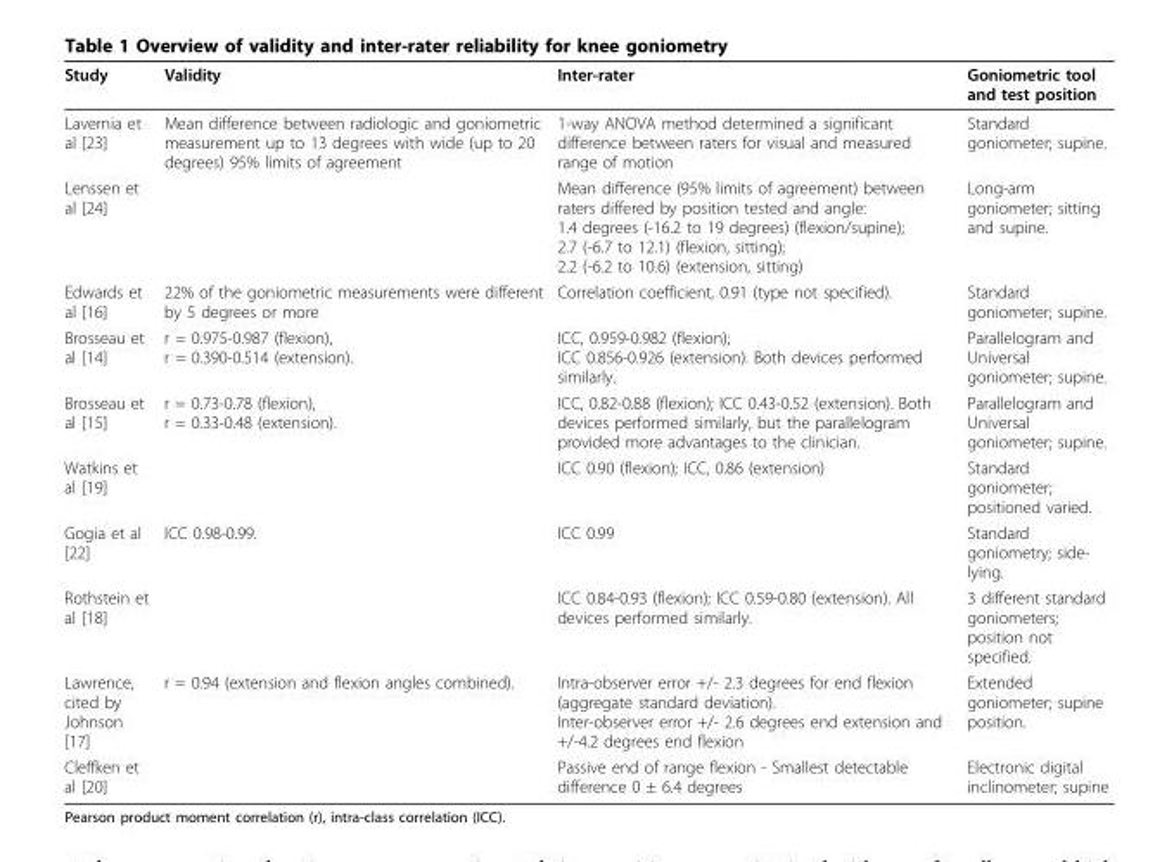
<table><thead><tr><td>Study</td><td>Validity</td><td>Inter-rater</td><td>Goniometric tool and test position</td></tr></thead><tbody><tr><td>Lavernia et al [23]</td><td>Mean difference between radiologic and goniometric measurement up to 13 degrees with wide (up to 20 degrees) 95% limits of agreement</td><td>1-way ANOVA method determined a significant difference between raters for visual and measured range of motion</td><td>Standard goniometer; supine.</td></tr><tr><td>Lenssen et al [24]</td><td></td><td>Mean difference (95% limits of agreement) between raters differed by position tested and angle: 1.4 degrees (-16.2 to 19 degrees) (flexion/supine); 2.7 (-6.7 to 12.1) (flexion, sitting); 2.2 (-6.2 to 10.6) (extension, sitting)</td><td>Long-arm goniometer; sitting and supine.</td></tr><tr><td>Edwards et al [16]</td><td>22% of the goniometric measurements were different by 5 degrees or more</td><td>Correlation coefficient, 0.91 (type not specified).</td><td>Standard goniometer; supine.</td></tr><tr><td>Brosseau et al [14]</td><td>r = 0.975-0.987 (flexion), r = 0.390-0.514 (extension).</td><td>ICC, 0.959-0.982 (flexion); ICC 0.856-0.926 (extension). Both devices performed similarly.</td><td>Parallelogram and Universal goniometer; supine.</td></tr><tr><td>Brosseau et al [15]</td><td>r = 0.73-0.78 (flexion), r = 0.33-0.48 (extension).</td><td>ICC, 0.82-0.88 (flexion); ICC 0.43-0.52 (extension). Both devices performed similarly, but the parallelogram provided more advantages to the clinician.</td><td>Parallelogram and Universal goniometer; supine.</td></tr><tr><td>Watkins et al [19]</td><td></td><td>ICC 0.90 (flexion); ICC, 0.86 (extension)</td><td>Standard goniometer; positioned varied.</td></tr><tr><td>Gogia et al [22]</td><td>ICC 0.98-0.99.</td><td>ICC 0.99</td><td>Standard goniometry; side- lying.</td></tr><tr><td>Rothstein et al [18]</td><td></td><td>ICC 0.84-0.93 (flexion); ICC 0.59-0.80 (extension). All devices performed similarly.</td><td>3 different standard goniometers; position not specified.</td></tr><tr><td>Lawrence, cited by Johnson [17]</td><td>r = 0.94 (extension and flexion angles combined).</td><td>Intra-observer error +/- 2.3 degrees for end flexion (aggregate standard deviation). Inter-observer error +/- 2.6 degrees end extension and +/-4.2 degrees end flexion</td><td>Extended goniometer; supine position.</td></tr><tr><td>Cleffken et al [20]</td><td></td><td>Passive end of range flexion - Smallest detectable difference 0 ± 6.4 degrees</td><td>Electronic digital inclinometer; supine</td></tr></tbody></table>